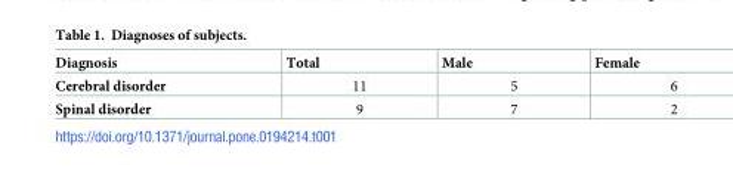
<table><thead><tr><td>Diagnosis</td><td>Total</td><td>Male</td><td>Female</td></tr></thead><tbody><tr><td>Cerebral disorder</td><td>11</td><td>5</td><td>6</td></tr><tr><td>Spinal disorder</td><td>9</td><td>7</td><td>2</td></tr></tbody></table>